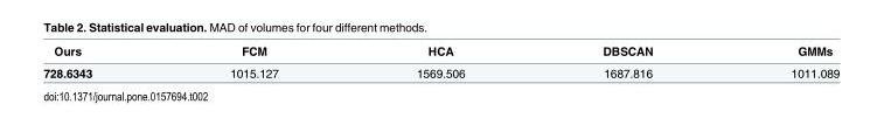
<table><thead><tr><td>Ours</td><td>FCM</td><td>HCA</td><td>DBSCAN</td><td>GMMs</td></tr></thead><tbody><tr><td>728.6343</td><td>1015.127</td><td>1569.506</td><td>1687.816</td><td>1011.089</td></tr></tbody></table>